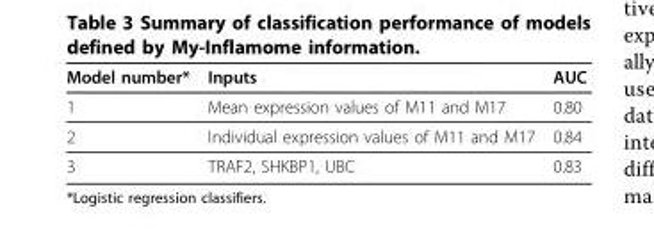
<table><thead><tr><td>Model number*</td><td>Inputs</td><td>AUC</td></tr></thead><tbody><tr><td>1</td><td>Mean expression values of M11 and M17</td><td>0.80</td></tr><tr><td>2</td><td>Individual expression values of M11 and M17</td><td>0.84</td></tr><tr><td>3</td><td>TRAF2, SHKBP1, UBC</td><td>0.83</td></tr></tbody></table>